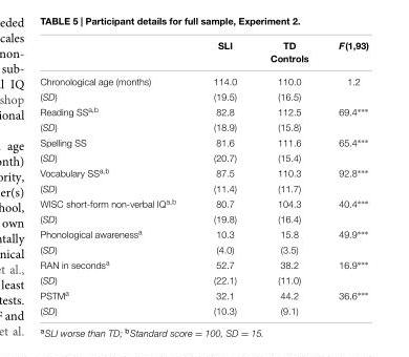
<table><thead><tr><td></td><td>SLI</td><td>TD Controls</td><td>F(1,93)</td></tr></thead><tbody><tr><td>Chronological age (months)</td><td>114.0</td><td>110.0</td><td>1.2</td></tr><tr><td>(SD)</td><td>(19.5)</td><td>(16.5)</td><td></td></tr><tr><td>Reading SS<sup>a,b</sup></td><td>82.8</td><td>112.5</td><td>69.4∗∗∗</td></tr><tr><td>(SD)</td><td>(18.9)</td><td>(15.8)</td><td></td></tr><tr><td>Spelling SS</td><td>81.6</td><td>111.6</td><td>65.4∗∗∗</td></tr><tr><td>(SD)</td><td>(20.7)</td><td>(15.4)</td><td></td></tr><tr><td>Vocabulary SS<sup>a,b</sup></td><td>87.5</td><td>110.3</td><td>92.8∗∗∗</td></tr><tr><td>(SD)</td><td>(11.4)</td><td>(11.7)</td><td></td></tr><tr><td>WISC short-form non-verbal IQ<sup>a,b</sup></td><td>80.7</td><td>104.3</td><td>40.4∗∗∗</td></tr><tr><td>(SD)</td><td>(19.8)</td><td>(16.4)</td><td></td></tr><tr><td>Phonological awareness<sup>a</sup></td><td>10.3</td><td>15.8</td><td>49.9∗∗∗</td></tr><tr><td>(SD)</td><td>(4.0)</td><td>(3.5)</td><td></td></tr><tr><td>RAN in seconds<sup>a</sup></td><td>52.7</td><td>38.2</td><td>16.9∗∗∗</td></tr><tr><td>(SD)</td><td>(22.1)</td><td>(11.0)</td><td></td></tr><tr><td>PSTM<sup>a</sup></td><td>32.1</td><td>44.2</td><td>36.6∗∗∗</td></tr><tr><td>(SD)</td><td>(10.3)</td><td>(9.1)</td><td></td></tr></tbody></table>